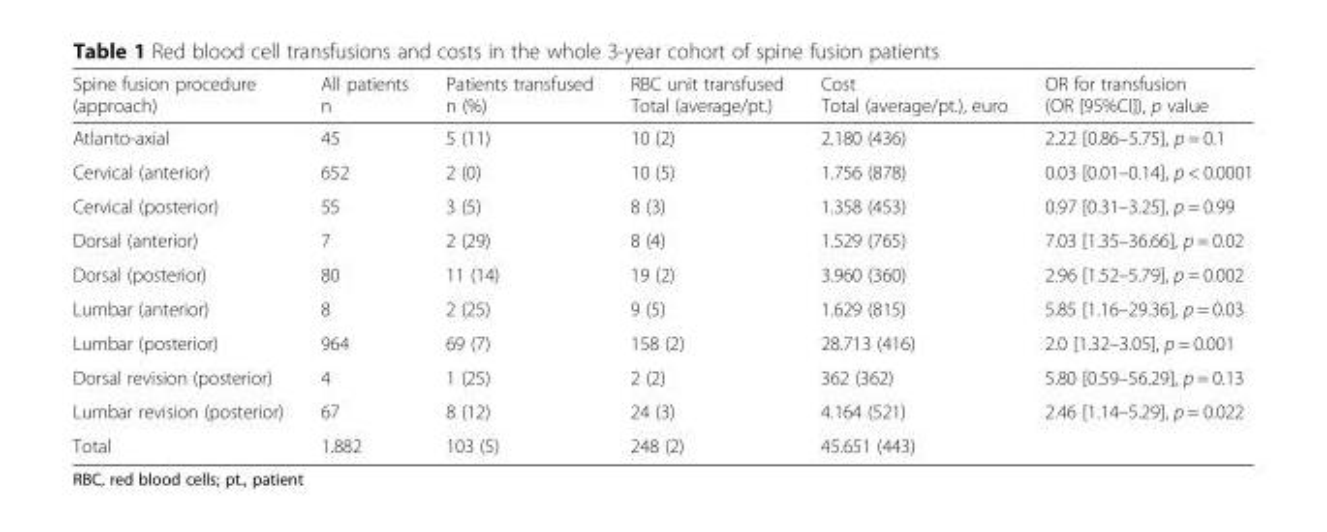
<table><thead><tr><td>Spine fusion procedure (approach)</td><td>All patients n</td><td>Patients transfused n (%)</td><td>RBC unit transfused Total (average/pt.)</td><td>Cost Total (average/pt.), euro</td><td>OR for transfusion (OR [95%CI]), p value</td></tr></thead><tbody><tr><td>Atlanto-axial</td><td>45</td><td>5 (11)</td><td>10 (2)</td><td>2.180 (436)</td><td>2.22 [0.86–5.75], p = 0.1</td></tr><tr><td>Cervical (anterior)</td><td>652</td><td>2 (0)</td><td>10 (5)</td><td>1.756 (878)</td><td>0.03 [0.01–0.14], p &lt; 0.0001</td></tr><tr><td>Cervical (posterior)</td><td>55</td><td>3 (5)</td><td>8 (3)</td><td>1.358 (453)</td><td>0.97 [0.31–3.25], p = 0.99</td></tr><tr><td>Dorsal (anterior)</td><td>7</td><td>2 (29)</td><td>8 (4)</td><td>1.529 (765)</td><td>7.03 [1.35–36.66], p = 0.02</td></tr><tr><td>Dorsal (posterior)</td><td>80</td><td>11 (14)</td><td>19 (2)</td><td>3.960 (360)</td><td>2.96 [1.52–5.79], p = 0.002</td></tr><tr><td>Lumbar (anterior)</td><td>8</td><td>2 (25)</td><td>9 (5)</td><td>1.629 (815)</td><td>5.85 [1.16–29.36], p = 0.03</td></tr><tr><td>Lumbar (posterior)</td><td>964</td><td>69 (7)</td><td>158 (2)</td><td>28.713 (416)</td><td>2.0 [1.32–3.05], p = 0.001</td></tr><tr><td>Dorsal revision (posterior)</td><td>4</td><td>1 (25)</td><td>2 (2)</td><td>362 (362)</td><td>5.80 [0.59–56.29], p = 0.13</td></tr><tr><td>Lumbar revision (posterior)</td><td>67</td><td>8 (12)</td><td>24 (3)</td><td>4.164 (521)</td><td>2.46 [1.14–5.29], p = 0.022</td></tr><tr><td>Total</td><td>1.882</td><td>103 (5)</td><td>248 (2)</td><td>45.651 (443)</td><td></td></tr></tbody></table>